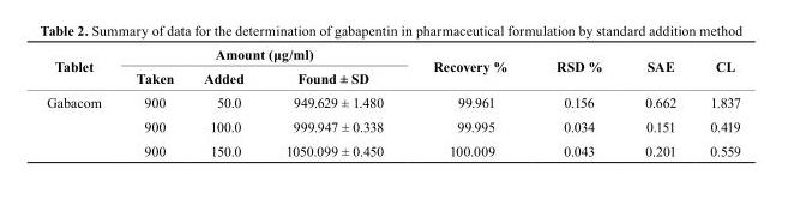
<table><thead><tr><td rowspan="2">tablet</td><td colspan="3">Amount (μg/ml)</td><td rowspan="2">Recovery %</td><td rowspan="2">RSD %</td><td rowspan="2">sAE</td><td rowspan="2">cL</td></tr><tr><td>taken</td><td>Added</td><td>Found ± SD</td></tr></thead><tbody><tr><td rowspan="3">Gabacom</td><td>900</td><td>50.0</td><td>949.629 ± 1.480</td><td>99.961</td><td>0.156</td><td>0.662</td><td>1.837</td></tr><tr><td>900</td><td>100.0</td><td>999.947 ± 0.338</td><td>99.995</td><td>0.034</td><td>0.151</td><td>0.419</td></tr><tr><td>900</td><td>150.0</td><td>1050.099 ± 0.450</td><td>100.009</td><td>0.043</td><td>0.201</td><td>0.559</td></tr></tbody></table>